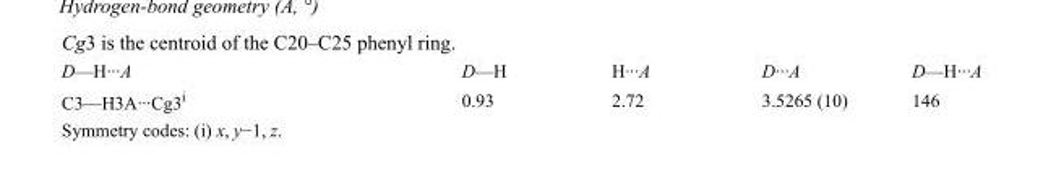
<table><tbody><tr><td>D—H···A</td><td>D—H</td><td>H···A</td><td>D···A</td><td>D—H···A</td></tr><tr><td>C3—H3A···Cg3<sup>i</sup></td><td>0.93</td><td>2.72</td><td>3.5265 (10)</td><td>146</td></tr></tbody></table>